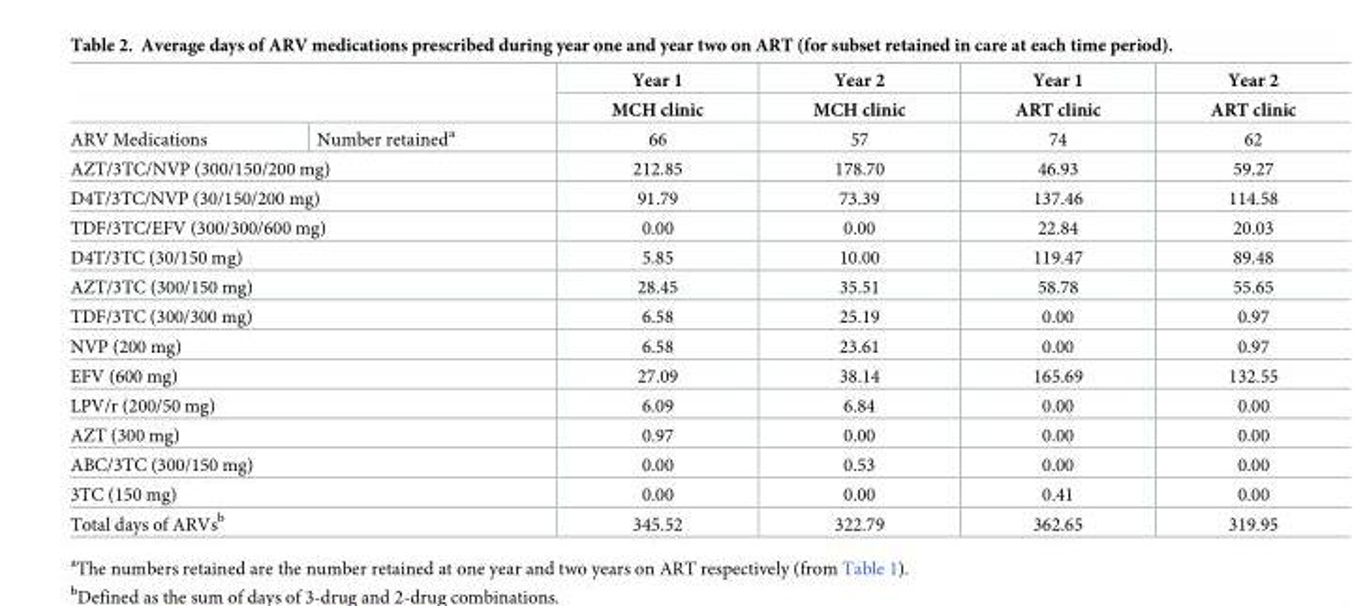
<table><thead><tr><td rowspan="2"></td><td rowspan="2"></td><td rowspan="2">Year 1 MCH clinic</td><td rowspan="2">Year 2 MCH clinic</td><td rowspan="2">Year 1 ART clinic</td><td rowspan="2">Year 2 ART clinic</td></tr><tr></tr></thead><tbody><tr><td>ARV Medications</td><td>Number retained<sup>a</sup></td><td>66</td><td>57</td><td>74</td><td>62</td></tr><tr><td colspan="2">AZT/3TC/NVP (300/150/200 mg)</td><td>212.85</td><td>178.70</td><td>46.93</td><td>59.27</td></tr><tr><td colspan="2">D4T/3TC/NVP (30/150/200 mg)</td><td>91.79</td><td>73.39</td><td>137.46</td><td>114.58</td></tr><tr><td colspan="2">TDF/3TC/EFV (300/300/600 mg)</td><td>0.00</td><td>0.00</td><td>22.84</td><td>20.03</td></tr><tr><td colspan="2">D4T/3TC (30/150 mg)</td><td>5.85</td><td>10.00</td><td>119.47</td><td>89.48</td></tr><tr><td colspan="2">AZT/3TC (300/150 mg)</td><td>28.45</td><td>35.51</td><td>58.78</td><td>55.65</td></tr><tr><td colspan="2">TDF/3TC (300/300 mg)</td><td>6.58</td><td>25.19</td><td>0.00</td><td>0.97</td></tr><tr><td colspan="2">NVP (200 mg)</td><td>6.58</td><td>23.61</td><td>0.00</td><td>0.97</td></tr><tr><td colspan="2">EFV (600 mg)</td><td>27.09</td><td>38.14</td><td>165.69</td><td>132.55</td></tr><tr><td colspan="2">LPV/r (200/50 mg)</td><td>6.09</td><td>6.84</td><td>0.00</td><td>0.00</td></tr><tr><td colspan="2">AZT (300 mg)</td><td>0.97</td><td>0.00</td><td>0.00</td><td>0.00</td></tr><tr><td colspan="2">ABC/3TC (300/150 mg)</td><td>0.00</td><td>0.53</td><td>0.00</td><td>0.00</td></tr><tr><td colspan="2">3TC (150 mg)</td><td>0.00</td><td>0.00</td><td>0.41</td><td>0.00</td></tr><tr><td colspan="2">Total days of ARVs<sup>b</sup></td><td>345.52</td><td>322.79</td><td>362.65</td><td>319.95</td></tr></tbody></table>